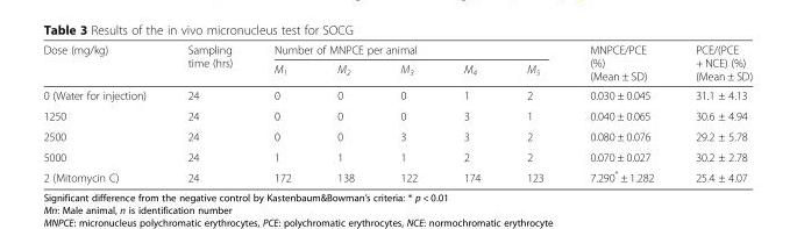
<table><thead><tr><td rowspan="2">Dose (mg/kg)</td><td rowspan="2">Sampling time (hrs)</td><td colspan="5">Number of MNPCE per animal</td><td rowspan="2">MNPCE/PCE (%) (Mean ± SD)</td><td rowspan="2">PCE/(PCE + NCE) (%) (Mean ± SD)</td></tr><tr><td>M<sub>1</sub></td><td>M<sub>2</sub></td><td>M<sub>3</sub></td><td>M<sub>4</sub></td><td>M<sub>5</sub></td></tr></thead><tbody><tr><td>0 (Water for injection)</td><td>24</td><td>0</td><td>0</td><td>0</td><td>1</td><td>2</td><td>0.030 ± 0.045</td><td>31.1 ± 4.13</td></tr><tr><td>1250</td><td>24</td><td>0</td><td>0</td><td>0</td><td>3</td><td>1</td><td>0.040 ± 0.065</td><td>30.6 ± 4.94</td></tr><tr><td>2500</td><td>24</td><td>0</td><td>0</td><td>3</td><td>3</td><td>2</td><td>0.080 ± 0.076</td><td>29.2 ± 5.78</td></tr><tr><td>5000</td><td>24</td><td>1</td><td>1</td><td>1</td><td>2</td><td>2</td><td>0.070 ± 0.027</td><td>30.2 ± 2.78</td></tr><tr><td>2 (Mitomycin C)</td><td>24</td><td>172</td><td>138</td><td>122</td><td>174</td><td>123</td><td>7.290* ± 1.282</td><td>25.4 ± 4.07</td></tr></tbody></table>